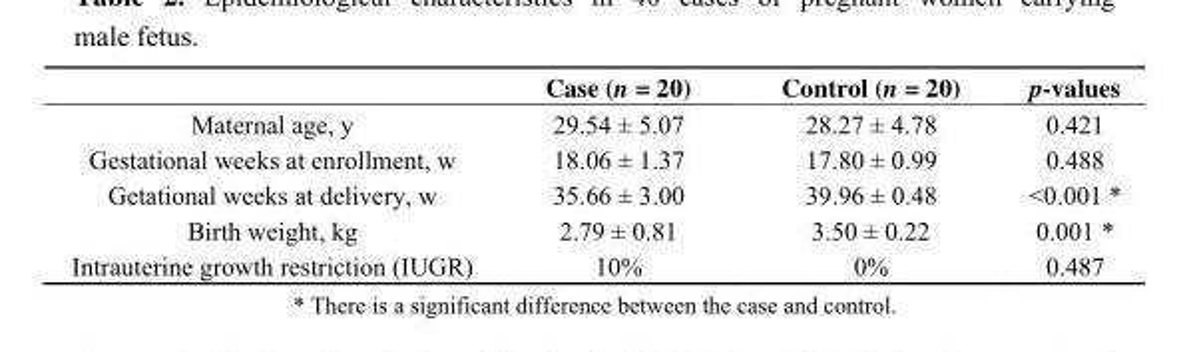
<table><thead><tr><td></td><td>Case (n = 20)</td><td>Control (n = 20)</td><td>p-values</td></tr></thead><tbody><tr><td>Maternal age, y</td><td>29.54 ± 5.07</td><td>28.27 ± 4.78</td><td>0.421</td></tr><tr><td>Gestational weeks at enrollment, w</td><td>18.06 ± 1.37</td><td>17.80 ± 0.99</td><td>0.488</td></tr><tr><td>Getational weeks at delivery, w</td><td>35.66 ± 3.00</td><td>39.96 ± 0.48</td><td>&lt;0.001 *</td></tr><tr><td>Birth weight, kg</td><td>2.79 ± 0.81</td><td>3.50 ± 0.22</td><td>0.001 *</td></tr><tr><td>Intrauterine growth restriction (IUGR)</td><td>10%</td><td>0%</td><td>0.487</td></tr></tbody></table>